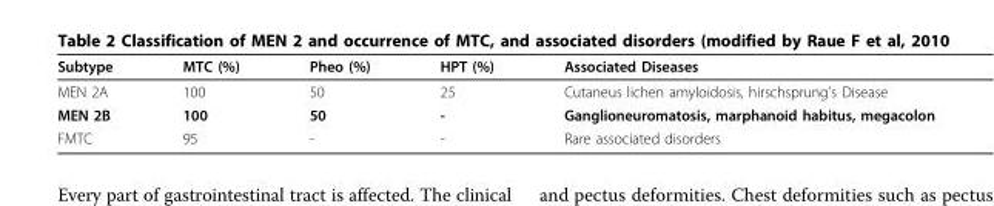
<table><thead><tr><td>Subtype</td><td>MTC (%)</td><td>Pheo (%)</td><td>HPT (%)</td><td>Associated Diseases</td></tr></thead><tbody><tr><td>MEN 2A</td><td>100</td><td>50</td><td>25</td><td>Cutaneus lichen amyloidosis, hirschsprung’s Disease</td></tr><tr><td>MEN 2B</td><td>100</td><td>50</td><td>-</td><td>Ganglioneuromatosis, marphanoid habitus, megacolon</td></tr><tr><td>FMTC</td><td>95</td><td>-</td><td>-</td><td>Rare associated disorders</td></tr></tbody></table>